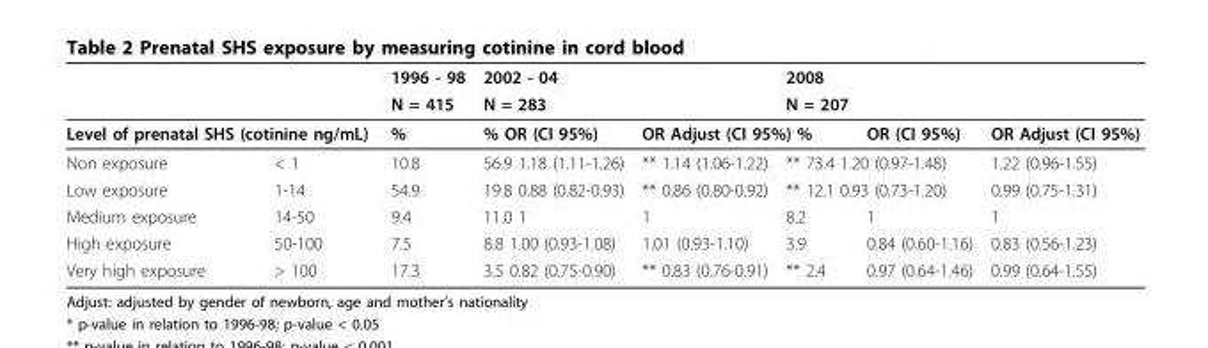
<table><thead><tr><td rowspan="2"></td><td rowspan="2"></td><td rowspan="2">1996 - 98 N = 415</td><td rowspan="2">2002 - 04 N = 283</td><td rowspan="2"></td><td colspan="2">2008</td><td rowspan="2"></td></tr><tr><td>N = 207</td><td></td></tr></thead><tbody><tr><td colspan="2">Level of prenatal SHS (cotinine ng/mL)</td><td>%</td><td>% OR (CI 95%)</td><td colspan="2">OR Adjust (CI 95%) %</td><td>OR (CI 95%)</td><td>OR Adjust (CI 95%)</td></tr><tr><td>Non exposure</td><td>&lt; 1</td><td>10.8</td><td>56.9 1.18 (1.11-1.26)</td><td>** 1.14 (1.06-1.22)</td><td colspan="2">** 73.4 1.20 (0.97-1.48)</td><td>1.22 (0.96-1.55)</td></tr><tr><td>Low exposure</td><td>1-14</td><td>54.9</td><td>19.8 0.88 (0.82-0.93)</td><td>** 0.86 (0.80-0.92)</td><td colspan="2">** 12.1 0.93 (0.73-1.20)</td><td>0.99 (0.75-1.31)</td></tr><tr><td>Medium exposure</td><td>14-50</td><td>9.4</td><td>11.0 1</td><td>1</td><td>8.2</td><td>1</td><td>1</td></tr><tr><td>High exposure</td><td>50-100</td><td>7.5</td><td>8.8 1.00 (0.93-1.08)</td><td>1.01 (0.93-1.10)</td><td>3.9</td><td>0.84 (0.60-1.16)</td><td>0.83 (0.56-1.23)</td></tr><tr><td>Very high exposure</td><td>&gt; 100</td><td>17.3</td><td>3.5 0.82 (0.75-0.90)</td><td>** 0.83 (0.76-0.91)</td><td>** 2.4</td><td>0.97 (0.64-1.46)</td><td>0.99 (0.64-1.55)</td></tr></tbody></table>